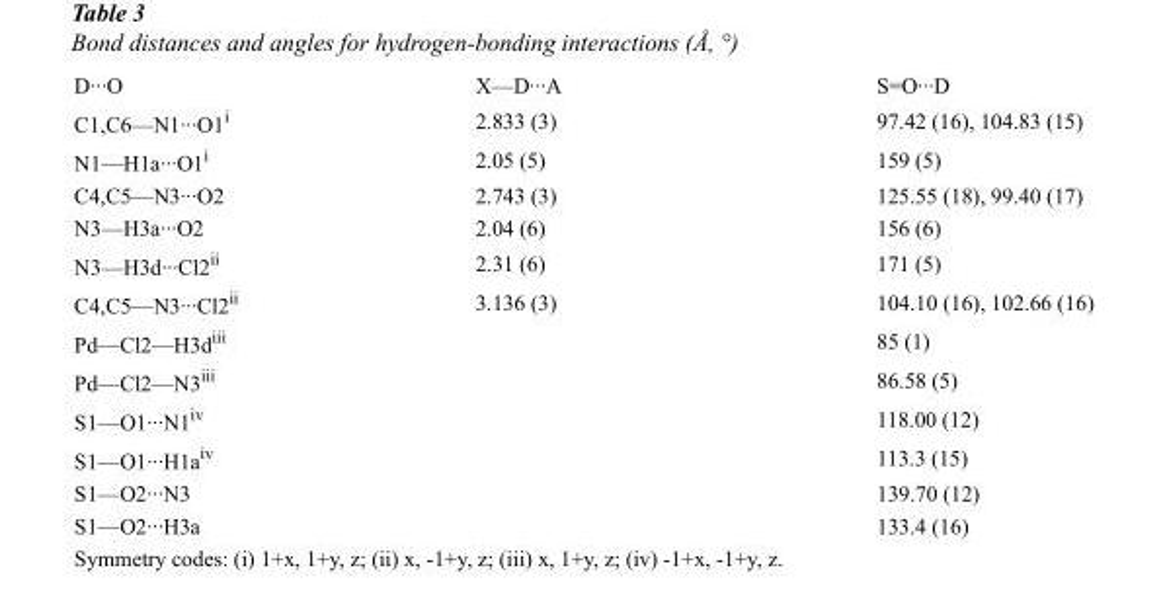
<table><tbody><tr><td>D···O</td><td>X—D···A</td><td>S=O···D</td></tr><tr><td>C1,C6—N1···O1<sup>i</sup></td><td>2.833 (3)</td><td>97.42 (16), 104.83 (15)</td></tr><tr><td>N1—H1a···O1<sup>i</sup></td><td>2.05 (5)</td><td>159 (5)</td></tr><tr><td>C4,C5—N3···O2</td><td>2.743 (3)</td><td>125.55 (18), 99.40 (17)</td></tr><tr><td>N3—H3a···O2</td><td>2.04 (6)</td><td>156 (6)</td></tr><tr><td>N3—H3d···Cl2<sup>ii</sup></td><td>2.31 (6)</td><td>171 (5)</td></tr><tr><td>C4,C5—N3···Cl2<sup>ii</sup></td><td>3.136 (3)</td><td>104.10 (16), 102.66 (16)</td></tr><tr><td>Pd—Cl2—H3d<sup>iii</sup></td><td></td><td>85 (1)</td></tr><tr><td>Pd—Cl2—N3<sup>iii</sup></td><td></td><td>86.58 (5)</td></tr><tr><td>S1—O1···N1<sup>iv</sup></td><td></td><td>118.00 (12)</td></tr><tr><td>S1—O1···H1a<sup>iv</sup></td><td></td><td>113.3 (15)</td></tr><tr><td>S1—O2···N3</td><td></td><td>139.70 (12)</td></tr><tr><td>S1—O2···H3a</td><td></td><td>133.4 (16)</td></tr></tbody></table>